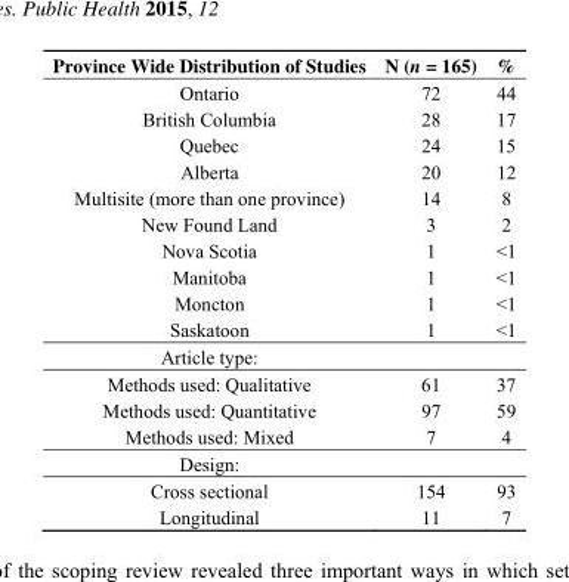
<table><thead><tr><td>Province Wide Distribution of Studies</td><td>N (n = 165)</td><td>%</td></tr></thead><tbody><tr><td>Ontario</td><td>72</td><td>44</td></tr><tr><td>British Columbia</td><td>28</td><td>17</td></tr><tr><td>Quebec</td><td>24</td><td>15</td></tr><tr><td>Alberta</td><td>20</td><td>12</td></tr><tr><td>Multisite (more than one province)</td><td>14</td><td>8</td></tr><tr><td>New Found Land</td><td>3</td><td>2</td></tr><tr><td>Nova Scotia</td><td>1</td><td>&lt;1</td></tr><tr><td>Manitoba</td><td>1</td><td>&lt;1</td></tr><tr><td>Moncton</td><td>1</td><td>&lt;1</td></tr><tr><td>Saskatoon</td><td>1</td><td>&lt;1</td></tr><tr><td colspan="3">Article type:</td></tr><tr><td>Methods used: Qualitative</td><td>61</td><td>37</td></tr><tr><td>Methods used: Quantitative</td><td>97</td><td>59</td></tr><tr><td>Methods used: Mixed</td><td>7</td><td>4</td></tr><tr><td colspan="3">Design:</td></tr><tr><td>Cross sectional</td><td>154</td><td>93</td></tr><tr><td>Longitudinal</td><td>11</td><td>7</td></tr></tbody></table>